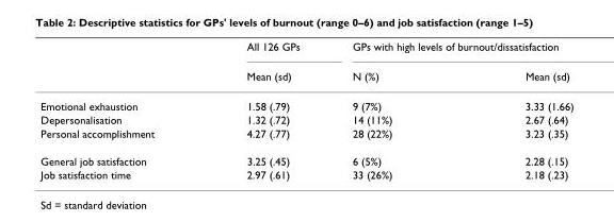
<table><thead><tr><td rowspan="2"></td><td rowspan="2">All 126 GPs Mean (sd)</td><td colspan="2">GPs with high levels of burnout/dissatisfaction</td></tr><tr><td>N (%)</td><td>Mean (sd)</td></tr></thead><tbody><tr><td>Emotional exhaustion</td><td>1.58 (.79)</td><td>9 (7%)</td><td>3.33 (1.66)</td></tr><tr><td>Depersonalisation</td><td>1.32 (.72)</td><td>14 (11%)</td><td>2.67 (.64)</td></tr><tr><td>Personal accomplishment</td><td>4.27 (.77)</td><td>28 (22%)</td><td>3.23 (.35)</td></tr><tr><td>General job satisfaction</td><td>3.25 (.45)</td><td>6 (5%)</td><td>2.28 (.15)</td></tr><tr><td>Job satisfaction time</td><td>2.97 (.61)</td><td>33 (26%)</td><td>2.18 (.23)</td></tr></tbody></table>